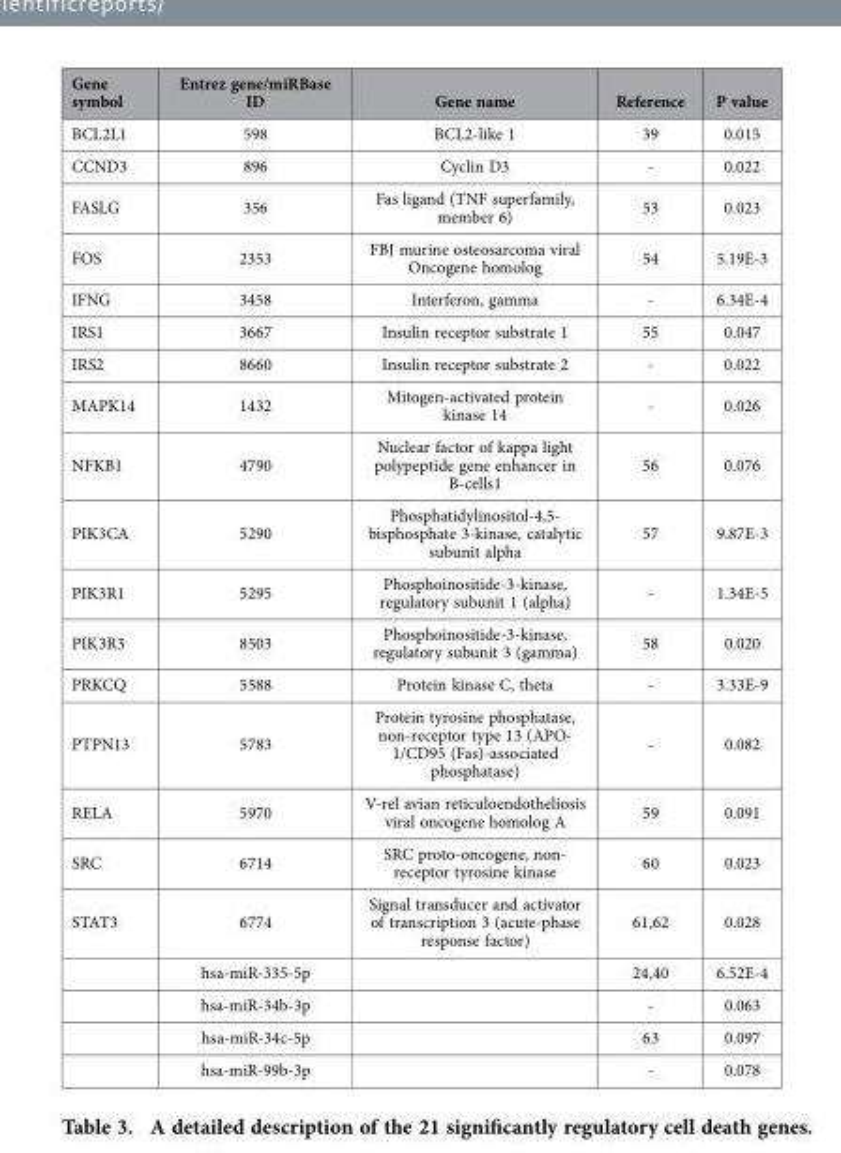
<table><thead><tr><td>Gene symbol</td><td>Entrez gene/miRBase ID</td><td>Gene name</td><td>Reference</td><td>P value</td></tr></thead><tbody><tr><td>BCL2L1</td><td>598</td><td>BCL2-like 1</td><td>39</td><td>0.015</td></tr><tr><td>CCND3</td><td>896</td><td>Cyclin D3</td><td>-</td><td>0.022</td></tr><tr><td>FASLG</td><td>356</td><td>Fas ligand (TNF superfamily, member 6)</td><td>53</td><td>0.023</td></tr><tr><td>FOS</td><td>2353</td><td>FBJ murine osteosarcoma viral Oncogene homolog</td><td>54</td><td>5.19E-3</td></tr><tr><td>IFNG</td><td>3458</td><td>Interferon, gamma</td><td>-</td><td>6.34E-4</td></tr><tr><td>IRS1</td><td>3667</td><td>Insulin receptor substrate 1</td><td>55</td><td>0.047</td></tr><tr><td>IRS2</td><td>8660</td><td>Insulin receptor substrate 2</td><td>-</td><td>0.022</td></tr><tr><td>MAPK14</td><td>1432</td><td>Mitogen-activated protein kinase 14</td><td>-</td><td>0.026</td></tr><tr><td>NFKB1</td><td>4790</td><td>Nuclear factor of kappa light polypeptide gene enhancer in B-cells1</td><td>56</td><td>0.076</td></tr><tr><td>PIK3CA</td><td>5290</td><td>Phosphatidylinositol-4,5- bisphosphate 3-kinase, catalytic subunit alpha</td><td>57</td><td>9.87E-3</td></tr><tr><td>PIK3R1</td><td>5295</td><td>Phosphoinositide-3-kinase, regulatory subunit 1 (alpha)</td><td>-</td><td>1.34E-5</td></tr><tr><td>PIK3R3</td><td>8503</td><td>Phosphoinositide-3-kinase, regulatory subunit 3 (gamma)</td><td>58</td><td>0.020</td></tr><tr><td>PRKCQ</td><td>5588</td><td>Protein kinase C, theta</td><td>-</td><td>3.33E-9</td></tr><tr><td>PTPN13</td><td>5783</td><td>Protein tyrosine phosphatase, non-receptor type 13 (APO- 1/CD95 (Fas)-associated phosphatase)</td><td>-</td><td>0.082</td></tr><tr><td>RELA</td><td>5970</td><td>V-rel avian reticuloendotheliosis viral oncogene homolog A</td><td>59</td><td>0.091</td></tr><tr><td>SRC</td><td>6714</td><td>SRC proto-oncogene, non- receptor tyrosine kinase</td><td>60</td><td>0.023</td></tr><tr><td rowspan="5">STAT3</td><td>6774</td><td>Signal transducer and activator of transcription 3 (acute-phase response factor)</td><td>61,62</td><td>0.028</td></tr><tr><td>hsa-miR-335-5p</td><td></td><td>24,40</td><td>6.52E-4</td></tr><tr><td>hsa-miR-34b-3p</td><td></td><td>-</td><td>0.063</td></tr><tr><td>hsa-miR-34c-5p</td><td></td><td>63</td><td>0.097</td></tr><tr><td>hsa-miR-99b-3p</td><td></td><td>-</td><td>0.078</td></tr></tbody></table>